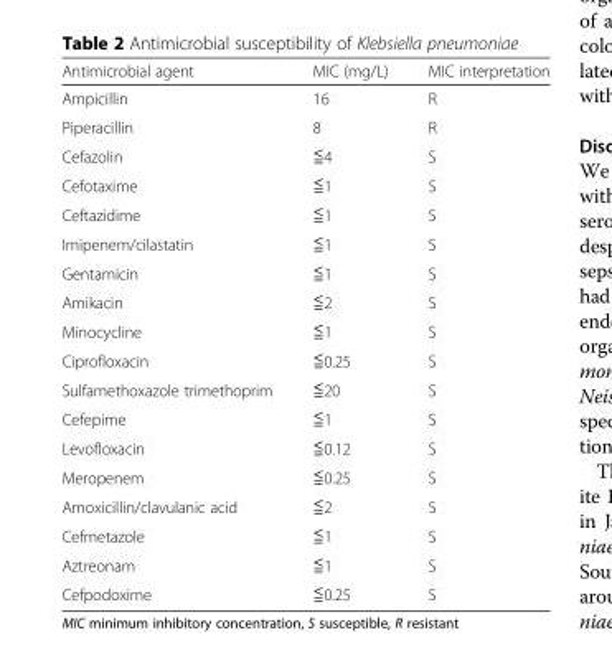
<table><thead><tr><td>Antimicrobial agent</td><td>MIC (mg/L)</td><td>MIC interpretation</td></tr></thead><tbody><tr><td>Ampicillin</td><td>16</td><td>R</td></tr><tr><td>Piperacillin</td><td>8</td><td>R</td></tr><tr><td>Cefazolin</td><td>≦4</td><td>S</td></tr><tr><td>Cefotaxime</td><td>≦1</td><td>S</td></tr><tr><td>Ceftazidime</td><td>≦1</td><td>S</td></tr><tr><td>Imipenem/cilastatin</td><td>≦1</td><td>S</td></tr><tr><td>Gentamicin</td><td>≦1</td><td>S</td></tr><tr><td>Amikacin</td><td>≦2</td><td>S</td></tr><tr><td>Minocycline</td><td>≦1</td><td>S</td></tr><tr><td>Ciprofloxacin</td><td>≦0.25</td><td>S</td></tr><tr><td>Sulfamethoxazole trimethoprim</td><td>≦20</td><td>S</td></tr><tr><td>Cefepime</td><td>≦1</td><td>S</td></tr><tr><td>Levofloxacin</td><td>≦0.12</td><td>S</td></tr><tr><td>Meropenem</td><td>≦0.25</td><td>S</td></tr><tr><td>Amoxicillin/clavulanic acid</td><td>≦2</td><td>S</td></tr><tr><td>Cefmetazole</td><td>≦1</td><td>S</td></tr><tr><td>Aztreonam</td><td>≦1</td><td>S</td></tr><tr><td>Cefpodoxime</td><td>≦0.25</td><td>S</td></tr></tbody></table>